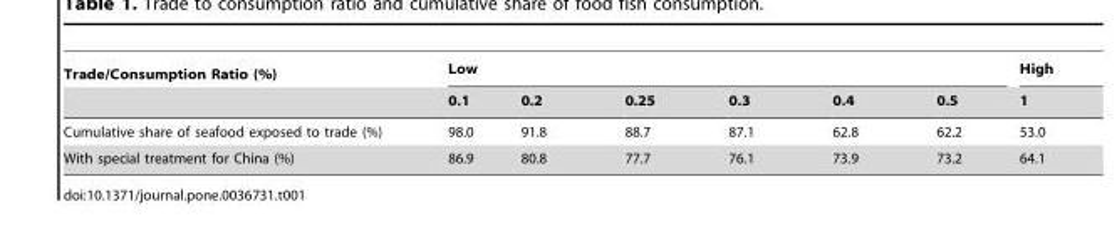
<table><thead><tr><td rowspan="2">Trade/Consumption Ratio (%)</td><td colspan="6">Low</td><td rowspan="2">High 1</td></tr><tr><td>0.1</td><td>0.2</td><td>0.25</td><td>0.3</td><td>0.4</td><td>0.5</td></tr></thead><tbody><tr><td>Cumulative share of seafood exposed to trade (%)</td><td>98.0</td><td>91.8</td><td>88.7</td><td>87.1</td><td>62.8</td><td>62.2</td><td>53.0</td></tr><tr><td>With special treatment for China (%)</td><td>86.9</td><td>80.8</td><td>77.7</td><td>76.1</td><td>73.9</td><td>73.2</td><td>64.1</td></tr></tbody></table>